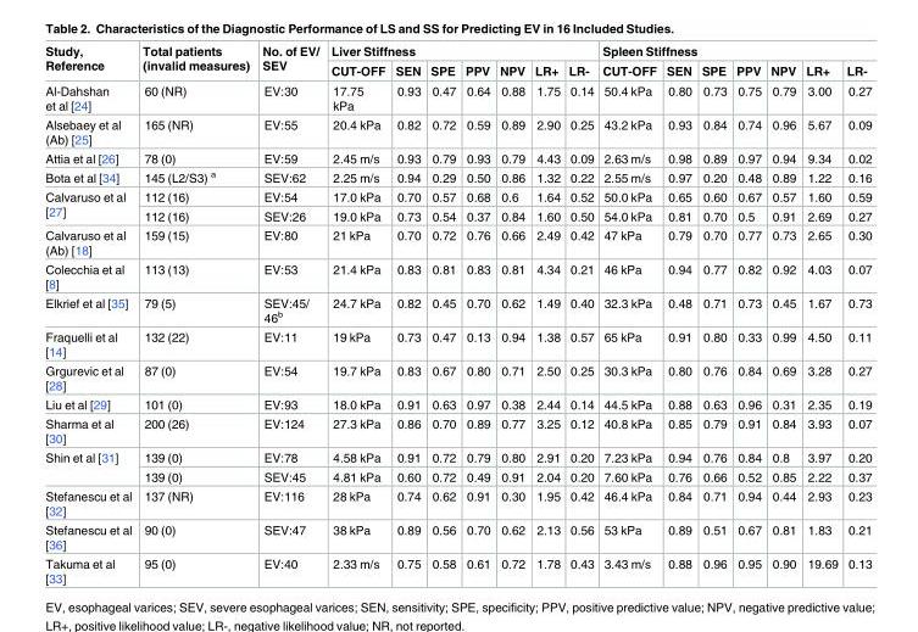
<table><thead><tr><td rowspan="2">Study, Reference</td><td rowspan="2">Total patients (invalid measures)</td><td rowspan="2">No. of EV/ SEV</td><td colspan="7">Liver Stiffness</td><td colspan="7">Spleen Stiffness</td></tr><tr><td>CUT-OFF</td><td>SEN</td><td>SPE</td><td>PPV</td><td>NPV</td><td>LR+</td><td>LR-</td><td>CUT-OFF</td><td>SEN</td><td>SPE</td><td>PPV</td><td>NPV</td><td>LR+</td><td>LR-</td></tr></thead><tbody><tr><td>Al-Dahshan et al [24]</td><td>60 (NR)</td><td>EV:30</td><td>17.75 kPa</td><td>0.93</td><td>0.47</td><td>0.64</td><td>0.88</td><td>1.75</td><td>0.14</td><td>50.4 kPa</td><td>0.80</td><td>0.73</td><td>0.75</td><td>0.79</td><td>3.00</td><td>0.27</td></tr><tr><td>Alsebaey et al (Ab) [25]</td><td>165 (NR)</td><td>EV:55</td><td>20.4 kPa</td><td>0.82</td><td>0.72</td><td>0.59</td><td>0.89</td><td>2.90</td><td>0.25</td><td>43.2 kPa</td><td>0.93</td><td>0.84</td><td>0.74</td><td>0.96</td><td>5.67</td><td>0.09</td></tr><tr><td>Attia et al [26]</td><td>78 (0)</td><td>EV:59</td><td>2.45 m/s</td><td>0.93</td><td>0.79</td><td>0.93</td><td>0.79</td><td>4.43</td><td>0.09</td><td>2.63 m/s</td><td>0.98</td><td>0.89</td><td>0.97</td><td>0.94</td><td>9.34</td><td>0.02</td></tr><tr><td>Bota et al [34]</td><td>145 (L2/S3) <sup>a</sup></td><td>SEV:62</td><td>2.25 m/s</td><td>0.94</td><td>0.29</td><td>0.50</td><td>0.86</td><td>1.32</td><td>0.22</td><td>2.55 m/s</td><td>0.97</td><td>0.20</td><td>0.48</td><td>0.89</td><td>1.22</td><td>0.16</td></tr><tr><td rowspan="2">Calvaruso et al [27]</td><td>112 (16)</td><td>EV:54</td><td>17.0 kPa</td><td>0.70</td><td>0.57</td><td>0.68</td><td>0.6</td><td>1.64</td><td>0.52</td><td>50.0 kPa</td><td>0.65</td><td>0.60</td><td>0.67</td><td>0.57</td><td>1.60</td><td>0.59</td></tr><tr><td>112 (16)</td><td>SEV:26</td><td>19.0 kPa</td><td>0.73</td><td>0.54</td><td>0.37</td><td>0.84</td><td>1.60</td><td>0.50</td><td>54.0 kPa</td><td>0.81</td><td>0.70</td><td>0.5</td><td>0.91</td><td>2.69</td><td>0.27</td></tr><tr><td>Calvaruso et al (Ab) [18]</td><td>159 (15)</td><td>EV:80</td><td>21 kPa</td><td>0.70</td><td>0.72</td><td>0.76</td><td>0.66</td><td>2.49</td><td>0.42</td><td>47 kPa</td><td>0.79</td><td>0.70</td><td>0.77</td><td>0.73</td><td>2.65</td><td>0.30</td></tr><tr><td>Colecchia et al [8]</td><td>113 (13)</td><td>EV:53</td><td>21.4 kPa</td><td>0.83</td><td>0.81</td><td>0.83</td><td>0.81</td><td>4.34</td><td>0.21</td><td>46 kPa</td><td>0.94</td><td>0.77</td><td>0.82</td><td>0.92</td><td>4.03</td><td>0.07</td></tr><tr><td>Elkrief et al [35]</td><td>79 (5)</td><td>SEV:45/ 46<sup>b</sup></td><td>24.7 kPa</td><td>0.82</td><td>0.45</td><td>0.70</td><td>0.62</td><td>1.49</td><td>0.40</td><td>32.3 kPa</td><td>0.48</td><td>0.71</td><td>0.73</td><td>0.45</td><td>1.67</td><td>0.73</td></tr><tr><td>Fraquelli et al [14]</td><td>132 (22)</td><td>EV:11</td><td>19 kPa</td><td>0.73</td><td>0.47</td><td>0.13</td><td>0.94</td><td>1.38</td><td>0.57</td><td>65 kPa</td><td>0.91</td><td>0.80</td><td>0.33</td><td>0.99</td><td>4.50</td><td>0.11</td></tr><tr><td>Grgurevic et al [28]</td><td>87 (0)</td><td>EV:54</td><td>19.7 kPa</td><td>0.83</td><td>0.67</td><td>0.80</td><td>0.71</td><td>2.50</td><td>0.25</td><td>30.3 kPa</td><td>0.80</td><td>0.76</td><td>0.84</td><td>0.69</td><td>3.28</td><td>0.27</td></tr><tr><td>Liu et al [29]</td><td>101 (0)</td><td>EV:93</td><td>18.0 kPa</td><td>0.91</td><td>0.63</td><td>0.97</td><td>0.38</td><td>2.44</td><td>0.14</td><td>44.5 kPa</td><td>0.88</td><td>0.63</td><td>0.96</td><td>0.31</td><td>2.35</td><td>0.19</td></tr><tr><td>Sharma et al [30]</td><td>200 (26)</td><td>EV:124</td><td>27.3 kPa</td><td>0.86</td><td>0.70</td><td>0.89</td><td>0.77</td><td>3.25</td><td>0.12</td><td>40.8 kPa</td><td>0.85</td><td>0.79</td><td>0.91</td><td>0.84</td><td>3.93</td><td>0.07</td></tr><tr><td rowspan="2">Shin et al [31]</td><td>139 (0)</td><td>EV:78</td><td>4.58 kPa</td><td>0.91</td><td>0.72</td><td>0.79</td><td>0.80</td><td>2.91</td><td>0.20</td><td>7.23 kPa</td><td>0.94</td><td>0.76</td><td>0.84</td><td>0.8</td><td>3.97</td><td>0.20</td></tr><tr><td>139 (0)</td><td>SEV:45</td><td>4.81 kPa</td><td>0.60</td><td>0.72</td><td>0.49</td><td>0.91</td><td>2.04</td><td>0.20</td><td>7.60 kPa</td><td>0.76</td><td>0.66</td><td>0.52</td><td>0.85</td><td>2.22</td><td>0.37</td></tr><tr><td>Stefanescu et al [32]</td><td>137 (NR)</td><td>EV:116</td><td>28 kPa</td><td>0.74</td><td>0.62</td><td>0.91</td><td>0.30</td><td>1.95</td><td>0.42</td><td>46.4 kPa</td><td>0.84</td><td>0.71</td><td>0.94</td><td>0.44</td><td>2.93</td><td>0.23</td></tr><tr><td>Stefanescu et al [36]</td><td>90 (0)</td><td>SEV:47</td><td>38 kPa</td><td>0.89</td><td>0.56</td><td>0.70</td><td>0.62</td><td>2.13</td><td>0.56</td><td>53 kPa</td><td>0.89</td><td>0.51</td><td>0.67</td><td>0.81</td><td>1.83</td><td>0.21</td></tr><tr><td>Takuma et al [33]</td><td>95 (0)</td><td>EV:40</td><td>2.33 m/s</td><td>0.75</td><td>0.58</td><td>0.61</td><td>0.72</td><td>1.78</td><td>0.43</td><td>3.43 m/s</td><td>0.88</td><td>0.96</td><td>0.95</td><td>0.90</td><td>19.69</td><td>0.13</td></tr></tbody></table>